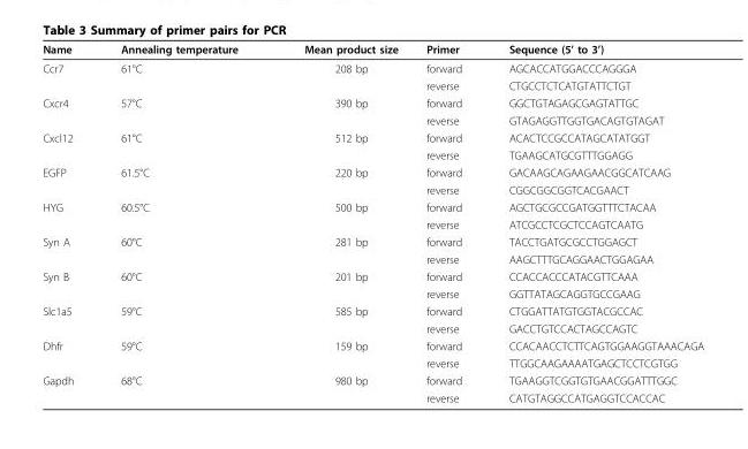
<table><thead><tr><td>Name</td><td>Annealing temperature</td><td>Mean product size</td><td>Primer</td><td>Sequence (5’ to 3’)</td></tr></thead><tbody><tr><td rowspan="2">Ccr7</td><td>61°C</td><td>208 bp</td><td>forward</td><td>AGCACCATGGACCCAGGGA</td></tr><tr><td></td><td></td><td>reverse</td><td>CTGCCTCTCATGTATTCTGT</td></tr><tr><td rowspan="2">Cxcr4</td><td>57°C</td><td>390 bp</td><td>forward</td><td>GGCTGTAGAGCGAGTATTGC</td></tr><tr><td></td><td></td><td>reverse</td><td>GTAGAGGTTGGTGACAGTGTAGAT</td></tr><tr><td rowspan="2">Cxcl12</td><td>61°C</td><td>512 bp</td><td>forward</td><td>ACACTCCGCCATAGCATATGGT</td></tr><tr><td></td><td></td><td>reverse</td><td>TGAAGCATGCGTTTGGAGG</td></tr><tr><td rowspan="2">EGFP</td><td>61.5°C</td><td>220 bp</td><td>forward</td><td>GACAAGCAGAAGAACGGCATCAAG</td></tr><tr><td></td><td></td><td>reverse</td><td>CGGCGGCGGTCACGAACT</td></tr><tr><td rowspan="2">HYG</td><td>60.5°C</td><td>500 bp</td><td>forward</td><td>AGCTGCGCCGATGGTTTCTACAA</td></tr><tr><td></td><td></td><td>reverse</td><td>ATCGCCTCGCTCCAGTCAATG</td></tr><tr><td rowspan="2">Syn A</td><td>60°C</td><td>281 bp</td><td>forward</td><td>TACCTGATGCGCCTGGAGCT</td></tr><tr><td></td><td></td><td>reverse</td><td>AAGCTTTGCAGGAACTGGAGAA</td></tr><tr><td rowspan="2">Syn B</td><td>60°C</td><td>201 bp</td><td>forward</td><td>CCACCACCCATACGTTCAAA</td></tr><tr><td></td><td></td><td>reverse</td><td>GGTTATAGCAGGTGCCGAAG</td></tr><tr><td rowspan="2">Slc1a5</td><td>59°C</td><td>585 bp</td><td>forward</td><td>CTGGATTATGTGGTACGCCAC</td></tr><tr><td></td><td></td><td>reverse</td><td>GACCTGTCCACTAGCCAGTC</td></tr><tr><td rowspan="2">Dhfr</td><td>59°C</td><td>159 bp</td><td>forward</td><td>CCACAACCTCTTCAGTGGAAGGTAAACAGA</td></tr><tr><td></td><td></td><td>reverse</td><td>TTGGCAAGAAAATGAGCTCCTCGTGG</td></tr><tr><td rowspan="2">Gapdh</td><td>68°C</td><td>980 bp</td><td>forward</td><td>TGAAGGTCGGTGTGAACGGATTTGGC</td></tr><tr><td></td><td></td><td>reverse</td><td>CATGTAGGCCATGAGGTCCACCAC</td></tr></tbody></table>